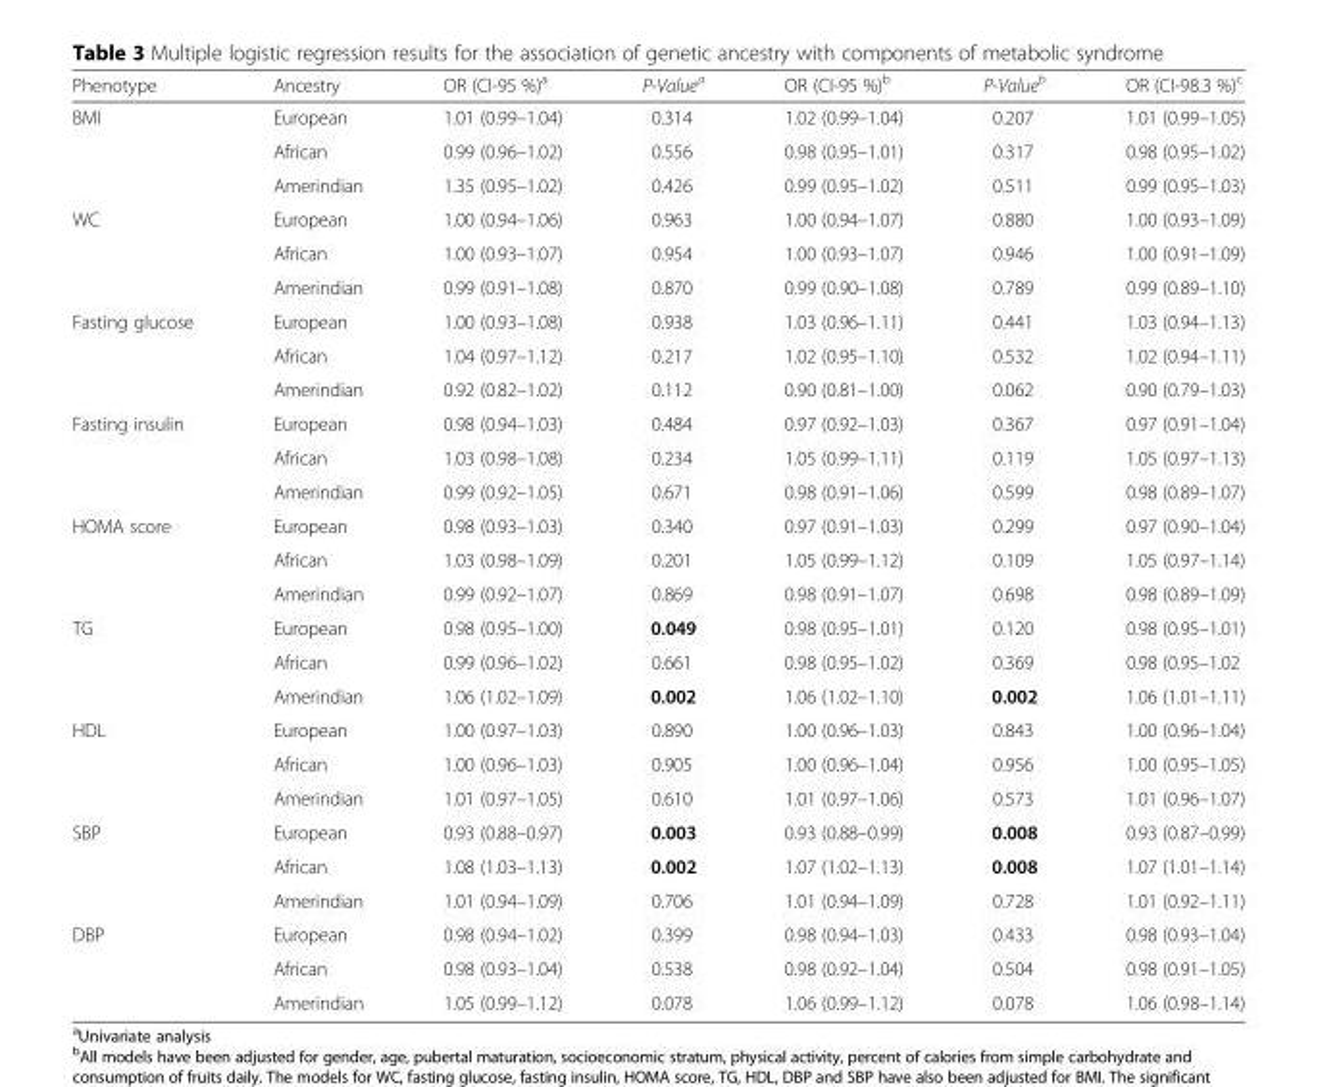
<table><thead><tr><td>Phenotype</td><td>Ancestry</td><td>OR (CI-95 %)<sup>a</sup></td><td>P-Value<sup>a</sup></td><td>OR (CI-95 %)<sup>b</sup></td><td>P-Value<sup>b</sup></td><td>OR (CI-98.3 %)<sup>c</sup></td></tr></thead><tbody><tr><td rowspan="3">BMI</td><td>European</td><td>1.01 (0.99–1.04)</td><td>0.314</td><td>1.02 (0.99–1.04)</td><td>0.207</td><td>1.01 (0.99–1.05)</td></tr><tr><td>African</td><td>0.99 (0.96–1.02)</td><td>0.556</td><td>0.98 (0.95–1.01)</td><td>0.317</td><td>0.98 (0.95–1.02)</td></tr><tr><td>Amerindian</td><td>1.35 (0.95–1.02)</td><td>0.426</td><td>0.99 (0.95–1.02)</td><td>0.511</td><td>0.99 (0.95–1.03)</td></tr><tr><td rowspan="3">WC</td><td>European</td><td>1.00 (0.94–1.06)</td><td>0.963</td><td>1.00 (0.94–1.07)</td><td>0.880</td><td>1.00 (0.93–1.09)</td></tr><tr><td>African</td><td>1.00 (0.93–1.07)</td><td>0.954</td><td>1.00 (0.93–1.07)</td><td>0.946</td><td>1.00 (0.91–1.09)</td></tr><tr><td>Amerindian</td><td>0.99 (0.91–1.08)</td><td>0.870</td><td>0.99 (0.90–1.08)</td><td>0.789</td><td>0.99 (0.89–1.10)</td></tr><tr><td rowspan="3">Fasting glucose</td><td>European</td><td>1.00 (0.93–1.08)</td><td>0.938</td><td>1.03 (0.96–1.11)</td><td>0.441</td><td>1.03 (0.94–1.13)</td></tr><tr><td>African</td><td>1.04 (0.97–1.12)</td><td>0.217</td><td>1.02 (0.95–1.10)</td><td>0.532</td><td>1.02 (0.94–1.11)</td></tr><tr><td>Amerindian</td><td>0.92 (0.82–1.02)</td><td>0.112</td><td>0.90 (0.81–1.00)</td><td>0.062</td><td>0.90 (0.79–1.03)</td></tr><tr><td rowspan="3">Fasting insulin</td><td>European</td><td>0.98 (0.94–1.03)</td><td>0.484</td><td>0.97 (0.92–1.03)</td><td>0.367</td><td>0.97 (0.91–1.04)</td></tr><tr><td>African</td><td>1.03 (0.98–1.08)</td><td>0.234</td><td>1.05 (0.99–1.11)</td><td>0.119</td><td>1.05 (0.97–1.13)</td></tr><tr><td>Amerindian</td><td>0.99 (0.92–1.05)</td><td>0.671</td><td>0.98 (0.91–1.06)</td><td>0.599</td><td>0.98 (0.89–1.07)</td></tr><tr><td rowspan="3">HOMA score</td><td>European</td><td>0.98 (0.93–1.03)</td><td>0.340</td><td>0.97 (0.91–1.03)</td><td>0.299</td><td>0.97 (0.90–1.04)</td></tr><tr><td>African</td><td>1.03 (0.98–1.09)</td><td>0.201</td><td>1.05 (0.99–1.12)</td><td>0.109</td><td>1.05 (0.97–1.14)</td></tr><tr><td>Amerindian</td><td>0.99 (0.92–1.07)</td><td>0.869</td><td>0.98 (0.91–1.07)</td><td>0.698</td><td>0.98 (0.89–1.09)</td></tr><tr><td rowspan="3">TG</td><td>European</td><td>0.98 (0.95–1.00)</td><td>0.049</td><td>0.98 (0.95–1.01)</td><td>0.120</td><td>0.98 (0.95–1.01)</td></tr><tr><td>African</td><td>0.99 (0.96–1.02)</td><td>0.661</td><td>0.98 (0.95–1.02)</td><td>0.369</td><td>0.98 (0.95–1.02</td></tr><tr><td>Amerindian</td><td>1.06 (1.02–1.09)</td><td>0.002</td><td>1.06 (1.02–1.10)</td><td>0.002</td><td>1.06 (1.01–1.11)</td></tr><tr><td rowspan="3">HDL</td><td>European</td><td>1.00 (0.97–1.03)</td><td>0.890</td><td>1.00 (0.96–1.03)</td><td>0.843</td><td>1.00 (0.96–1.04)</td></tr><tr><td>African</td><td>1.00 (0.96–1.03)</td><td>0.905</td><td>1.00 (0.96–1.04)</td><td>0.956</td><td>1.00 (0.95–1.05)</td></tr><tr><td>Amerindian</td><td>1.01 (0.97–1.05)</td><td>0.610</td><td>1.01 (0.97–1.06)</td><td>0.573</td><td>1.01 (0.96–1.07)</td></tr><tr><td rowspan="3">SBP</td><td>European</td><td>0.93 (0.88–0.97)</td><td>0.003</td><td>0.93 (0.88–0.99)</td><td>0.008</td><td>0.93 (0.87–0.99)</td></tr><tr><td>African</td><td>1.08 (1.03–1.13)</td><td>0.002</td><td>1.07 (1.02–1.13)</td><td>0.008</td><td>1.07 (1.01–1.14)</td></tr><tr><td>Amerindian</td><td>1.01 (0.94–1.09)</td><td>0.706</td><td>1.01 (0.94–1.09)</td><td>0.728</td><td>1.01 (0.92–1.11)</td></tr><tr><td rowspan="3">DBP</td><td>European</td><td>0.98 (0.94–1.02)</td><td>0.399</td><td>0.98 (0.94–1.03)</td><td>0.433</td><td>0.98 (0.93–1.04)</td></tr><tr><td>African</td><td>0.98 (0.93–1.04)</td><td>0.538</td><td>0.98 (0.92–1.04)</td><td>0.504</td><td>0.98 (0.91–1.05)</td></tr><tr><td>Amerindian</td><td>1.05 (0.99–1.12)</td><td>0.078</td><td>1.06 (0.99–1.12)</td><td>0.078</td><td>1.06 (0.98–1.14)</td></tr></tbody></table>